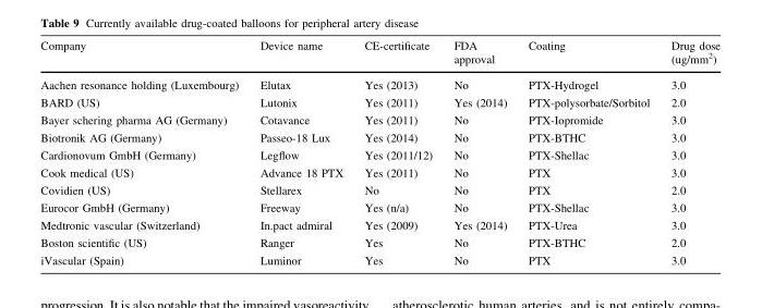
<table><thead><tr><td>Company</td><td>Device name</td><td>CE-certificate</td><td>FDA approval</td><td>Coating</td><td>Drug dose (ug/mm<sup>2</sup>)</td></tr></thead><tbody><tr><td>Aachen resonance holding (Luxembourg)</td><td>Elutax</td><td>Yes (2013)</td><td>No</td><td>PTX-Hydrogel</td><td>3.0</td></tr><tr><td>BARD (US)</td><td>Lutonix</td><td>Yes (2011)</td><td>Yes (2014)</td><td>PTX-polysorbate/Sorbitol</td><td>2.0</td></tr><tr><td>Bayer schering pharma AG (Germany)</td><td>Cotavance</td><td>Yes (2011)</td><td>No</td><td>PTX-Iopromide</td><td>3.0</td></tr><tr><td>Biotronik AG (Germany)</td><td>Passeo-18 Lux</td><td>Yes (2014)</td><td>No</td><td>PTX-BTHC</td><td>3.0</td></tr><tr><td>Cardionovum GmbH (Germany)</td><td>Legflow</td><td>Yes (2011/12)</td><td>No</td><td>PTX-Shellac</td><td>3.0</td></tr><tr><td>Cook medical (US)</td><td>Advance 18 PTX</td><td>Yes (2011)</td><td>No</td><td>PTX</td><td>3.0</td></tr><tr><td>Covidien (US)</td><td>Stellarex</td><td>No</td><td>No</td><td>PTX</td><td>2.0</td></tr><tr><td>Eurocor GmbH (Germany)</td><td>Freeway</td><td>Yes (n/a)</td><td>No</td><td>PTX-Shellac</td><td>3.0</td></tr><tr><td>Medtronic vascular (Switzerland)</td><td>In.pact admiral</td><td>Yes (2009)</td><td>Yes (2014)</td><td>PTX-Urea</td><td>3.0</td></tr><tr><td>Boston scientific (US)</td><td>Ranger</td><td>Yes</td><td>No</td><td>PTX-BTHC</td><td>2.0</td></tr><tr><td>iVascular (Spain)</td><td>Luminor</td><td>Yes</td><td>No</td><td>PTX</td><td>3.0</td></tr></tbody></table>